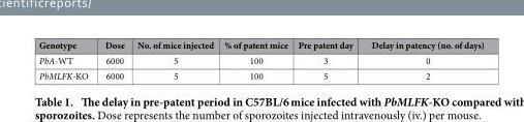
<table><thead><tr><td>Genotype</td><td>Dose</td><td>No. of mice injected</td><td>% of patent mice</td><td>Pre patent day</td><td>Delay in patency (no. of days)</td></tr></thead><tbody><tr><td>PbA-WT</td><td>6000</td><td>5</td><td>100</td><td>3</td><td>0</td></tr><tr><td>PbMLFK-KO</td><td>6000</td><td>5</td><td>100</td><td>5</td><td>2</td></tr></tbody></table>